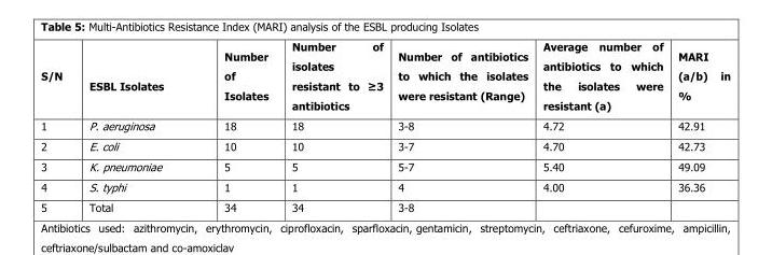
<table><thead><tr><td>S/N</td><td>ESBL Isolates</td><td>Number of Isolates</td><td>Number of isolates resistant to ≥3 antibiotics</td><td>Number of antibiotics to which the isolates were resistant (Range)</td><td>Average number of antibiotics to which the isolates were resistant (a)</td><td>MARI (a/b) in %</td></tr></thead><tbody><tr><td>1</td><td>P. aeruginosa</td><td>18</td><td>18</td><td>3-8</td><td>4.72</td><td>42.91</td></tr><tr><td>2</td><td>E. coli</td><td>10</td><td>10</td><td>3-7</td><td>4.70</td><td>42.73</td></tr><tr><td>3</td><td>K. pneumoniae</td><td>5</td><td>5</td><td>5-7</td><td>5.40</td><td>49.09</td></tr><tr><td>4</td><td>S. typhi</td><td>1</td><td>1</td><td>4</td><td>4.00</td><td>36.36</td></tr><tr><td>5</td><td>Total</td><td>34</td><td>34</td><td>3-8</td><td></td><td></td></tr></tbody></table>